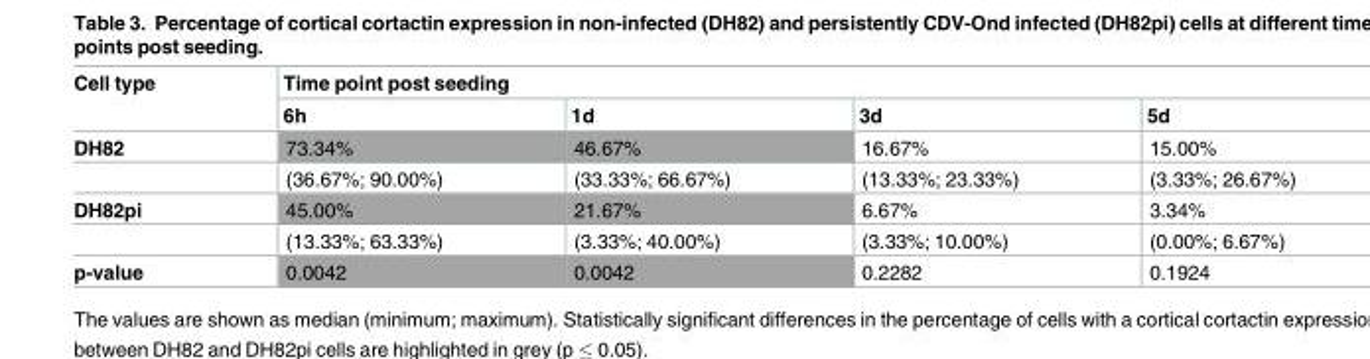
<table><thead><tr><td rowspan="2">Cell type</td><td colspan="4">Time point post seeding</td></tr><tr><td>6h</td><td>1d</td><td>3d</td><td>5d</td></tr></thead><tbody><tr><td rowspan="2">DH82</td><td>73.34%</td><td>46.67%</td><td>16.67%</td><td>15.00%</td></tr><tr><td>(36.67%; 90.00%)</td><td>(33.33%; 66.67%)</td><td>(13.33%; 23.33%)</td><td>(3.33%; 26.67%)</td></tr><tr><td rowspan="2">DH82pi</td><td>45.00%</td><td>21.67%</td><td>6.67%</td><td>3.34%</td></tr><tr><td>(13.33%; 63.33%)</td><td>(3.33%; 40.00%)</td><td>(3.33%; 10.00%)</td><td>(0.00%; 6.67%)</td></tr><tr><td>p-value</td><td>0.0042</td><td>0.0042</td><td>0.2282</td><td>0.1924</td></tr></tbody></table>